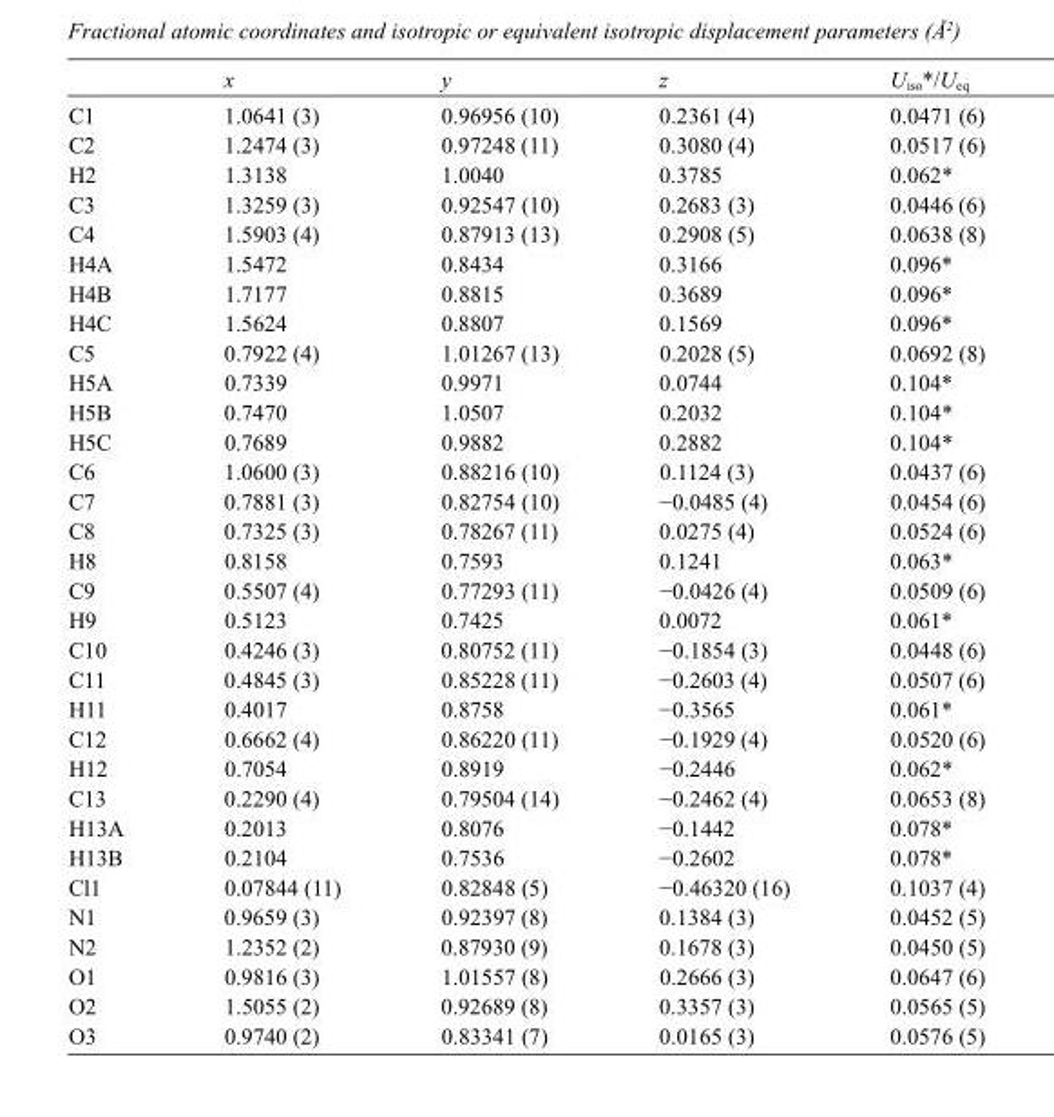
<table><thead><tr><td></td><td>x</td><td>y</td><td>z</td><td>U<sub>iso</sub>*/U<sub>eq</sub></td></tr></thead><tbody><tr><td>C1</td><td>1.0641 (3)</td><td>0.96956 (10)</td><td>0.2361 (4)</td><td>0.0471 (6)</td></tr><tr><td>C2</td><td>1.2474 (3)</td><td>0.97248 (11)</td><td>0.3080 (4)</td><td>0.0517 (6)</td></tr><tr><td>H2</td><td>1.3138</td><td>1.0040</td><td>0.3785</td><td>0.062*</td></tr><tr><td>C3</td><td>1.3259 (3)</td><td>0.92547 (10)</td><td>0.2683 (3)</td><td>0.0446 (6)</td></tr><tr><td>C4</td><td>1.5903 (4)</td><td>0.87913 (13)</td><td>0.2908 (5)</td><td>0.0638 (8)</td></tr><tr><td>H4A</td><td>1.5472</td><td>0.8434</td><td>0.3166</td><td>0.096*</td></tr><tr><td>H4B</td><td>1.7177</td><td>0.8815</td><td>0.3689</td><td>0.096*</td></tr><tr><td>H4C</td><td>1.5624</td><td>0.8807</td><td>0.1569</td><td>0.096*</td></tr><tr><td>C5</td><td>0.7922 (4)</td><td>1.01267 (13)</td><td>0.2028 (5)</td><td>0.0692 (8)</td></tr><tr><td>H5A</td><td>0.7339</td><td>0.9971</td><td>0.0744</td><td>0.104*</td></tr><tr><td>H5B</td><td>0.7470</td><td>1.0507</td><td>0.2032</td><td>0.104*</td></tr><tr><td>H5C</td><td>0.7689</td><td>0.9882</td><td>0.2882</td><td>0.104*</td></tr><tr><td>C6</td><td>1.0600 (3)</td><td>0.88216 (10)</td><td>0.1124 (3)</td><td>0.0437 (6)</td></tr><tr><td>C7</td><td>0.7881 (3)</td><td>0.82754 (10)</td><td>−0.0485 (4)</td><td>0.0454 (6)</td></tr><tr><td>C8</td><td>0.7325 (3)</td><td>0.78267 (11)</td><td>0.0275 (4)</td><td>0.0524 (6)</td></tr><tr><td>H8</td><td>0.8158</td><td>0.7593</td><td>0.1241</td><td>0.063*</td></tr><tr><td>C9</td><td>0.5507 (4)</td><td>0.77293 (11)</td><td>−0.0426 (4)</td><td>0.0509 (6)</td></tr><tr><td>H9</td><td>0.5123</td><td>0.7425</td><td>0.0072</td><td>0.061*</td></tr><tr><td>C10</td><td>0.4246 (3)</td><td>0.80752 (11)</td><td>−0.1854 (3)</td><td>0.0448 (6)</td></tr><tr><td>C11</td><td>0.4845 (3)</td><td>0.85228 (11)</td><td>−0.2603 (4)</td><td>0.0507 (6)</td></tr><tr><td>H11</td><td>0.4017</td><td>0.8758</td><td>−0.3565</td><td>0.061*</td></tr><tr><td>C12</td><td>0.6662 (4)</td><td>0.86220 (11)</td><td>−0.1929 (4)</td><td>0.0520 (6)</td></tr><tr><td>H12</td><td>0.7054</td><td>0.8919</td><td>−0.2446</td><td>0.062*</td></tr><tr><td>C13</td><td>0.2290 (4)</td><td>0.79504 (14)</td><td>−0.2462 (4)</td><td>0.0653 (8)</td></tr><tr><td>H13A</td><td>0.2013</td><td>0.8076</td><td>−0.1442</td><td>0.078*</td></tr><tr><td>H13B</td><td>0.2104</td><td>0.7536</td><td>−0.2602</td><td>0.078*</td></tr><tr><td>Cl1</td><td>0.07844 (11)</td><td>0.82848 (5)</td><td>−0.46320 (16)</td><td>0.1037 (4)</td></tr><tr><td>N1</td><td>0.9659 (3)</td><td>0.92397 (8)</td><td>0.1384 (3)</td><td>0.0452 (5)</td></tr><tr><td>N2</td><td>1.2352 (2)</td><td>0.87930 (9)</td><td>0.1678 (3)</td><td>0.0450 (5)</td></tr><tr><td>O1</td><td>0.9816 (3)</td><td>1.01557 (8)</td><td>0.2666 (3)</td><td>0.0647 (6)</td></tr><tr><td>O2</td><td>1.5055 (2)</td><td>0.92689 (8)</td><td>0.3357 (3)</td><td>0.0565 (5)</td></tr><tr><td>O3</td><td>0.9740 (2)</td><td>0.83341 (7)</td><td>0.0165 (3)</td><td>0.0576 (5)</td></tr></tbody></table>